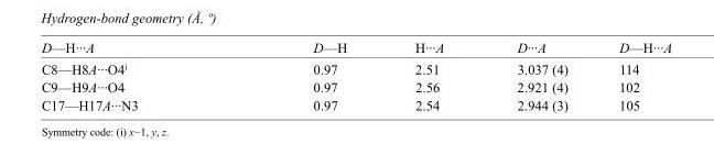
<table><tbody><tr><td>D—H···A</td><td>D—H</td><td>H···A</td><td>D···A</td><td>D—H···A</td></tr><tr><td>C8—H8A···O4<sup>i</sup></td><td>0.97</td><td>2.51</td><td>3.037 (4)</td><td>114</td></tr><tr><td>C9—H9A···O4</td><td>0.97</td><td>2.56</td><td>2.921 (4)</td><td>102</td></tr><tr><td>C17—H17A···N3</td><td>0.97</td><td>2.54</td><td>2.944 (3)</td><td>105</td></tr></tbody></table>